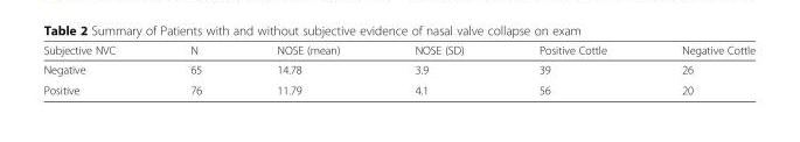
<table><thead><tr><td>Subjective NVC</td><td>N</td><td>NOSE (mean)</td><td>NOSE (SD)</td><td>Positive Cottle</td><td>Negative Cottle</td></tr></thead><tbody><tr><td>Negative</td><td>65</td><td>14.78</td><td>3.9</td><td>39</td><td>26</td></tr><tr><td>Positive</td><td>76</td><td>11.79</td><td>4.1</td><td>56</td><td>20</td></tr></tbody></table>